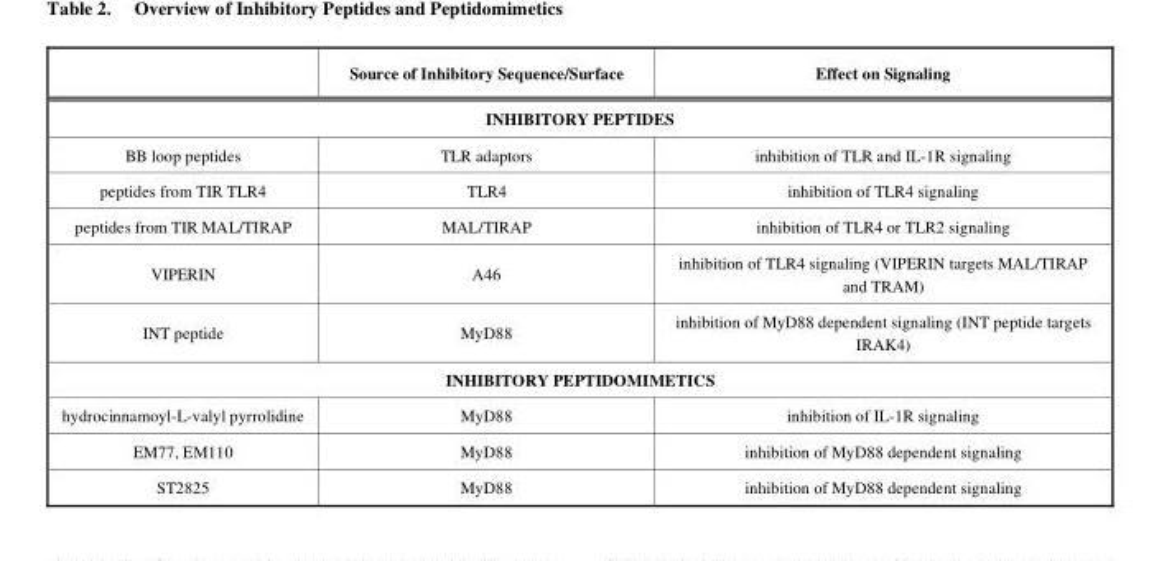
<table><thead><tr><td></td><td>Source of Inhibitory Sequence/Surface</td><td>Effect on Signaling</td></tr></thead><tbody><tr><td colspan="3">INHIBITORY PEPTIDES</td></tr><tr><td>BB loop peptides</td><td>TLR adaptors</td><td>inhibition of TLR and IL-1R signaling</td></tr><tr><td>peptides from TIR TLR4</td><td>TLR4</td><td>inhibition of TLR4 signaling</td></tr><tr><td>peptides from TIR MAL/TIRAP</td><td>MAL/TIRAP</td><td>inhibition of TLR4 or TLR2 signaling</td></tr><tr><td>VIPERIN</td><td>A46</td><td>inhibition of TLR4 signaling (VIPERIN targets MAL/TIRAP and TRAM)</td></tr><tr><td>INT peptide</td><td>MyD88</td><td>inhibition of MyD88 dependent signaling (INT peptide targets IRAK4)</td></tr><tr><td colspan="3">INHIBITORY PEPTIDOMIMETICS</td></tr><tr><td>hydrocinnamoyl-L-valyl pyrrolidine</td><td>MyD88</td><td>inhibition of IL-1R signaling</td></tr><tr><td>EM77, EM110</td><td>MyD88</td><td>inhibition of MyD88 dependent signaling</td></tr><tr><td>ST2825</td><td>MyD88</td><td>inhibition of MyD88 dependent signaling</td></tr></tbody></table>